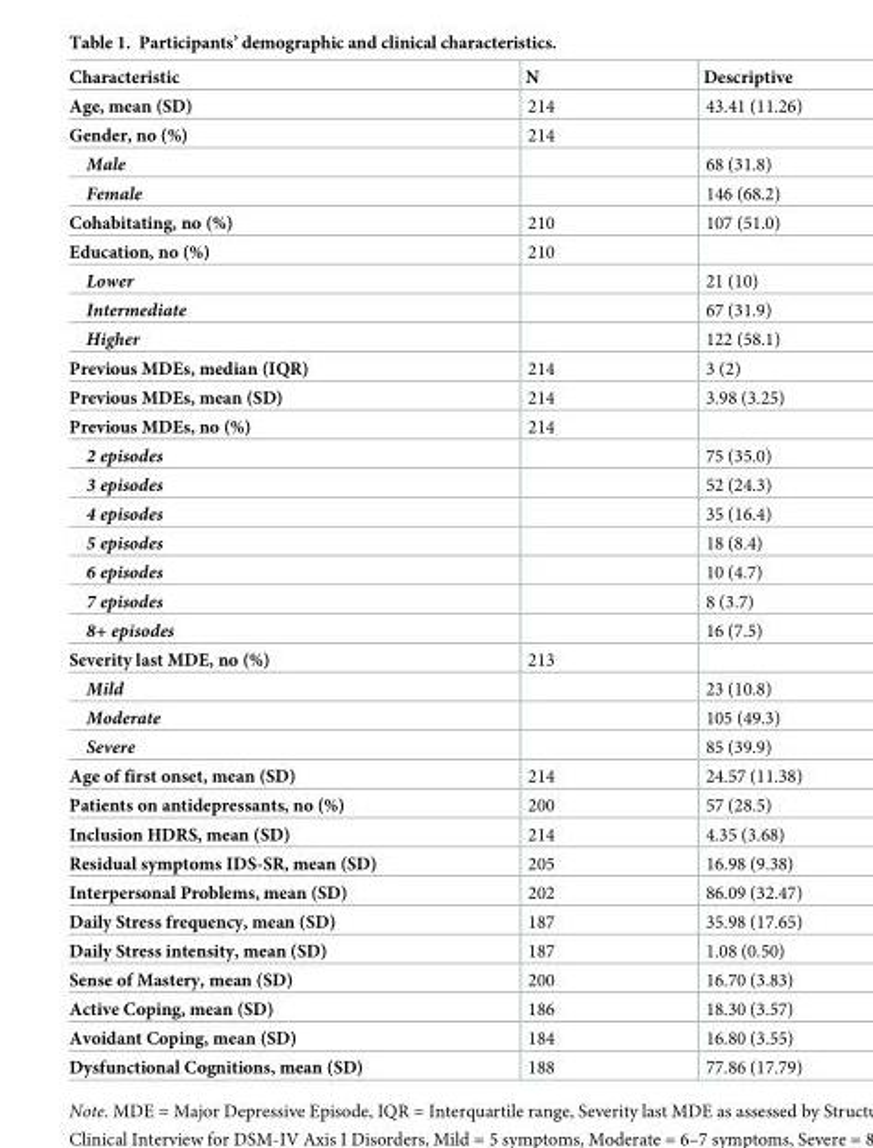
<table><thead><tr><td>Characteristic</td><td>N</td><td>Descriptive</td></tr></thead><tbody><tr><td>Age, mean (SD)</td><td>214</td><td>43.41 (11.26)</td></tr><tr><td>Gender, no (%)</td><td>214</td><td></td></tr><tr><td>Male</td><td></td><td>68 (31.8)</td></tr><tr><td>Female</td><td></td><td>146 (68.2)</td></tr><tr><td>Cohabitating, no (%)</td><td>210</td><td>107 (51.0)</td></tr><tr><td>Education, no (%)</td><td>210</td><td></td></tr><tr><td>Lower</td><td></td><td>21 (10)</td></tr><tr><td>Intermediate</td><td></td><td>67 (31.9)</td></tr><tr><td>Higher</td><td></td><td>122 (58.1)</td></tr><tr><td>Previous MDEs, median (IQR)</td><td>214</td><td>3 (2)</td></tr><tr><td>Previous MDEs, mean (SD)</td><td>214</td><td>3.98 (3.25)</td></tr><tr><td>Previous MDEs, no (%)</td><td>214</td><td></td></tr><tr><td>2 episodes</td><td></td><td>75 (35.0)</td></tr><tr><td>3 episodes</td><td></td><td>52 (24.3)</td></tr><tr><td>4 episodes</td><td></td><td>35 (16.4)</td></tr><tr><td>5 episodes</td><td></td><td>18 (8.4)</td></tr><tr><td>6 episodes</td><td></td><td>10 (4.7)</td></tr><tr><td>7 episodes</td><td></td><td>8 (3.7)</td></tr><tr><td>8+ episodes</td><td></td><td>16 (7.5)</td></tr><tr><td>Severity last MDE, no (%)</td><td>213</td><td></td></tr><tr><td>Mild</td><td></td><td>23 (10.8)</td></tr><tr><td>Moderate</td><td></td><td>105 (49.3)</td></tr><tr><td>Severe</td><td></td><td>85 (39.9)</td></tr><tr><td>Age of first onset, mean (SD)</td><td>214</td><td>24.57 (11.38)</td></tr><tr><td>Patients on antidepressants, no (%)</td><td>200</td><td>57 (28.5)</td></tr><tr><td>Inclusion HDRS, mean (SD)</td><td>214</td><td>4.35 (3.68)</td></tr><tr><td>Residual symptoms IDS-SR, mean (SD)</td><td>205</td><td>16.98 (9.38)</td></tr><tr><td>Interpersonal Problems, mean (SD)</td><td>202</td><td>86.09 (32.47)</td></tr><tr><td>Daily Stress frequency, mean (SD)</td><td>187</td><td>35.98 (17.65)</td></tr><tr><td>Daily Stress intensity, mean (SD)</td><td>187</td><td>1.08 (0.50)</td></tr><tr><td>Sense of Mastery, mean (SD)</td><td>200</td><td>16.70 (3.83)</td></tr><tr><td>Active Coping, mean (SD)</td><td>186</td><td>18.30 (3.57)</td></tr><tr><td>Avoidant Coping, mean (SD)</td><td>184</td><td>16.80 (3.55)</td></tr><tr><td>Dysfunctional Cognitions, mean (SD)</td><td>188</td><td>77.86 (17.79)</td></tr></tbody></table>